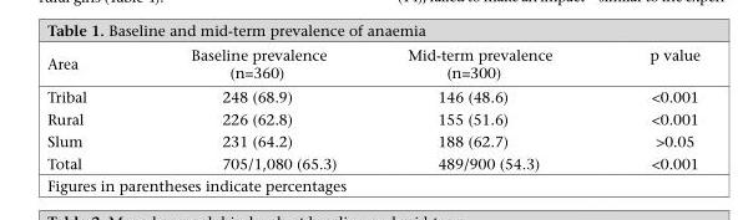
<table><thead><tr><td>Area</td><td>Baseline prevalence (n=360)</td><td>Mid-term prevalence (n=300)</td><td>p value</td></tr></thead><tbody><tr><td>Tribal</td><td>248 (68.9)</td><td>146 (48.6)</td><td>&lt;0.001</td></tr><tr><td>Rural</td><td>226 (62.8)</td><td>155 (51.6)</td><td>&lt;0.001</td></tr><tr><td>Slum</td><td>231 (64.2)</td><td>188 (62.7)</td><td>&gt;0.05</td></tr><tr><td>Total</td><td>705/1,080 (65.3)</td><td>489/900 (54.3)</td><td>&lt;0.001</td></tr></tbody></table>